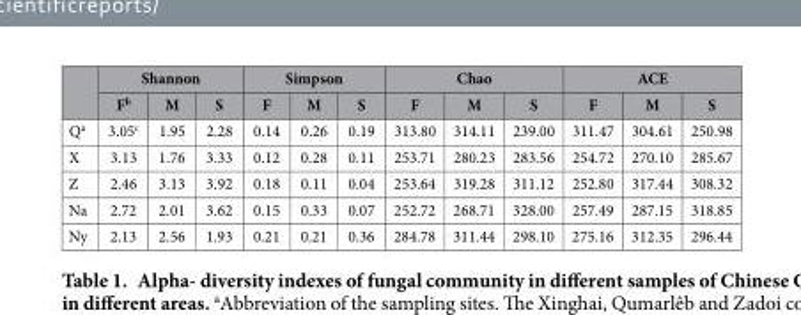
<table><thead><tr><td rowspan="2"></td><td colspan="3">Shannon</td><td colspan="3">Simpson</td><td colspan="3">Chao</td><td colspan="3">ACE</td></tr><tr><td>F<sup>b</sup></td><td>M</td><td>S</td><td>F</td><td>M</td><td>S</td><td>F</td><td>M</td><td>S</td><td>F</td><td>M</td><td>S</td></tr></thead><tbody><tr><td>Q<sup>a</sup></td><td>3.05<sup>c</sup></td><td>1.95</td><td>2.28</td><td>0.14</td><td>0.26</td><td>0.19</td><td>313.80</td><td>314.11</td><td>239.00</td><td>311.47</td><td>304.61</td><td>250.98</td></tr><tr><td>X</td><td>3.13</td><td>1.76</td><td>3.33</td><td>0.12</td><td>0.28</td><td>0.11</td><td>253.71</td><td>280.23</td><td>283.56</td><td>254.72</td><td>270.10</td><td>285.67</td></tr><tr><td>Z</td><td>2.46</td><td>3.13</td><td>3.92</td><td>0.18</td><td>0.11</td><td>0.04</td><td>253.64</td><td>319.28</td><td>311.12</td><td>252.80</td><td>317.44</td><td>308.32</td></tr><tr><td>Na</td><td>2.72</td><td>2.01</td><td>3.62</td><td>0.15</td><td>0.33</td><td>0.07</td><td>252.72</td><td>268.71</td><td>328.00</td><td>257.49</td><td>287.15</td><td>318.85</td></tr><tr><td>Ny</td><td>2.13</td><td>2.56</td><td>1.93</td><td>0.21</td><td>0.21</td><td>0.36</td><td>284.78</td><td>311.44</td><td>298.10</td><td>275.16</td><td>312.35</td><td>296.44</td></tr></tbody></table>